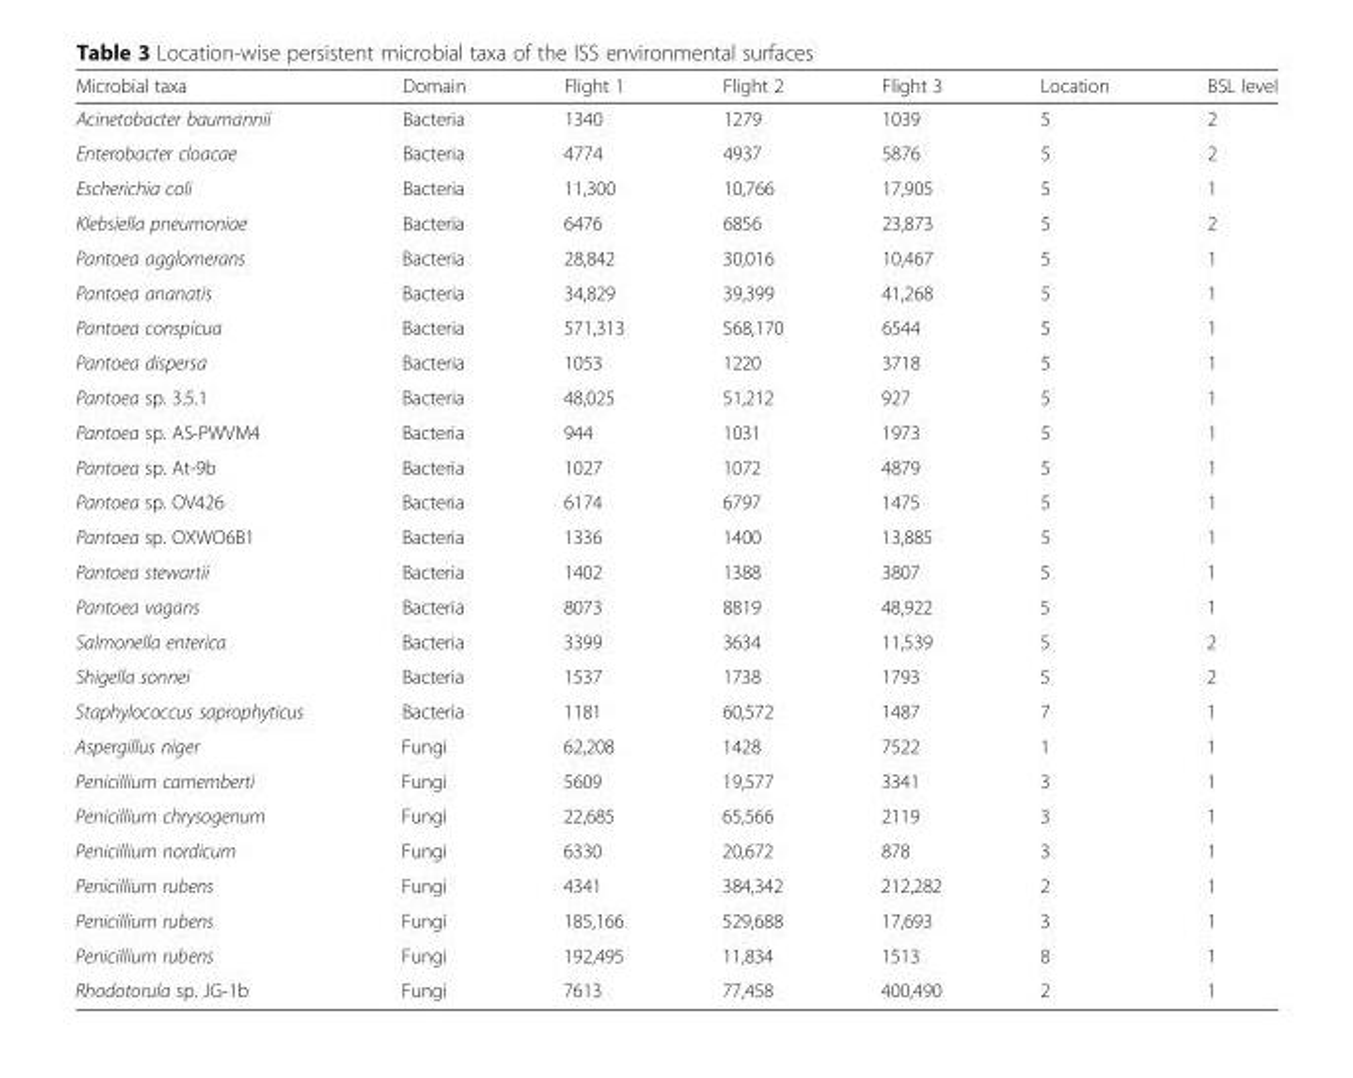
<table><thead><tr><td>Microbial taxa</td><td>Domain</td><td>Flight 1</td><td>Flight 2</td><td>Flight 3</td><td>Location</td><td>BSL level</td></tr></thead><tbody><tr><td>Acinetobacter baumannii</td><td>Bacteria</td><td>1340</td><td>1279</td><td>1039</td><td>5</td><td>2</td></tr><tr><td>Enterobacter cloacae</td><td>Bacteria</td><td>4774</td><td>4937</td><td>5876</td><td>5</td><td>2</td></tr><tr><td>Escherichia coli</td><td>Bacteria</td><td>11,300</td><td>10,766</td><td>17,905</td><td>5</td><td>1</td></tr><tr><td>Klebsiella pneumoniae</td><td>Bacteria</td><td>6476</td><td>6856</td><td>23,873</td><td>5</td><td>2</td></tr><tr><td>Pantoea agglomerans</td><td>Bacteria</td><td>28,842</td><td>30,016</td><td>10,467</td><td>5</td><td>1</td></tr><tr><td>Pantoea ananatis</td><td>Bacteria</td><td>34,829</td><td>39,399</td><td>41,268</td><td>5</td><td>1</td></tr><tr><td>Pantoea conspicua</td><td>Bacteria</td><td>571,313</td><td>568,170</td><td>6544</td><td>5</td><td>1</td></tr><tr><td>Pantoea dispersa</td><td>Bacteria</td><td>1053</td><td>1220</td><td>3718</td><td>5</td><td>1</td></tr><tr><td>Pantoea sp. 3.5.1</td><td>Bacteria</td><td>48,025</td><td>51,212</td><td>927</td><td>5</td><td>1</td></tr><tr><td>Pantoea sp. AS-PWVM4</td><td>Bacteria</td><td>944</td><td>1031</td><td>1973</td><td>5</td><td>1</td></tr><tr><td>Pantoea sp. At-9b</td><td>Bacteria</td><td>1027</td><td>1072</td><td>4879</td><td>5</td><td>1</td></tr><tr><td>Pantoea sp. OV426</td><td>Bacteria</td><td>6174</td><td>6797</td><td>1475</td><td>5</td><td>1</td></tr><tr><td>Pantoea sp. OXWO6B1</td><td>Bacteria</td><td>1336</td><td>1400</td><td>13,885</td><td>5</td><td>1</td></tr><tr><td>Pantoea stewartii</td><td>Bacteria</td><td>1402</td><td>1388</td><td>3807</td><td>5</td><td>1</td></tr><tr><td>Pantoea vagans</td><td>Bacteria</td><td>8073</td><td>8819</td><td>48,922</td><td>5</td><td>1</td></tr><tr><td>Salmonella enterica</td><td>Bacteria</td><td>3399</td><td>3634</td><td>11,539</td><td>5</td><td>2</td></tr><tr><td>Shigella sonnei</td><td>Bacteria</td><td>1537</td><td>1738</td><td>1793</td><td>5</td><td>2</td></tr><tr><td>Staphylococcus saprophyticus</td><td>Bacteria</td><td>1181</td><td>60,572</td><td>1487</td><td>7</td><td>1</td></tr><tr><td>Aspergillus niger</td><td>Fungi</td><td>62,208</td><td>1428</td><td>7522</td><td>1</td><td>1</td></tr><tr><td>Penicillium camemberti</td><td>Fungi</td><td>5609</td><td>19,577</td><td>3341</td><td>3</td><td>1</td></tr><tr><td>Penicillium chrysogenum</td><td>Fungi</td><td>22,685</td><td>65,566</td><td>2119</td><td>3</td><td>1</td></tr><tr><td>Penicillium nordicum</td><td>Fungi</td><td>6330</td><td>20,672</td><td>878</td><td>3</td><td>1</td></tr><tr><td>Penicillium rubens</td><td>Fungi</td><td>4341</td><td>384,342</td><td>212,282</td><td>2</td><td>1</td></tr><tr><td>Penicillium rubens</td><td>Fungi</td><td>185,166</td><td>529,688</td><td>17,693</td><td>3</td><td>1</td></tr><tr><td>Penicillium rubens</td><td>Fungi</td><td>192,495</td><td>11,834</td><td>1513</td><td>8</td><td>1</td></tr><tr><td>Rhodotorula sp. JG-1b</td><td>Fungi</td><td>7613</td><td>77,458</td><td>400,490</td><td>2</td><td>1</td></tr></tbody></table>